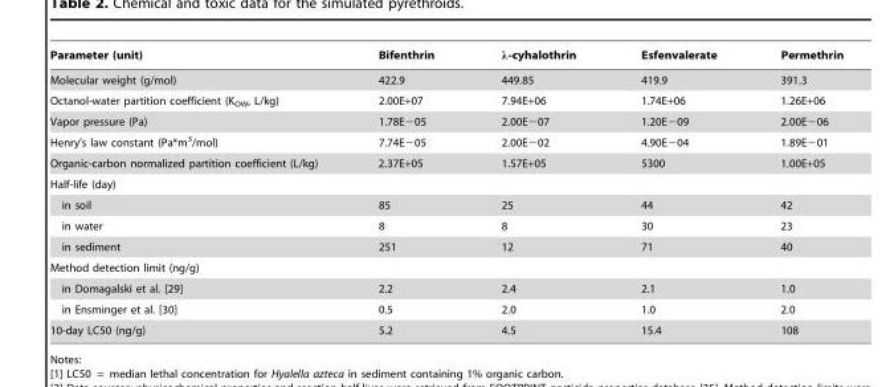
<table><thead><tr><td>Parameter (unit)</td><td>Bifenthrin</td><td>λ-cyhalothrin</td><td>Esfenvalerate</td><td>Permethrin</td></tr></thead><tbody><tr><td>Molecular weight (g/mol)</td><td>422.9</td><td>449.85</td><td>419.9</td><td>391.3</td></tr><tr><td>Octanol-water partition coefficient (K<sub>OW</sub>, L/kg)</td><td>2.00E+07</td><td>7.94E+06</td><td>1.74E+06</td><td>1.26E+06</td></tr><tr><td>Vapor pressure (Pa)</td><td>1.78E−05</td><td>2.00E−07</td><td>1.20E−09</td><td>2.00E−06</td></tr><tr><td>Henry’s law constant (Pa*m<sup>3</sup>/mol)</td><td>7.74E−05</td><td>2.00E−02</td><td>4.90E−04</td><td>1.89E−01</td></tr><tr><td>Organic-carbon normalized partition coefficient (L/kg)</td><td>2.37E+05</td><td>1.57E+05</td><td>5300</td><td>1.00E+05</td></tr><tr><td colspan="5">Half-life (day)</td></tr><tr><td>in soil</td><td>85</td><td>25</td><td>44</td><td>42</td></tr><tr><td>in water</td><td>8</td><td>8</td><td>30</td><td>23</td></tr><tr><td>in sediment</td><td>251</td><td>12</td><td>71</td><td>40</td></tr><tr><td colspan="5">Method detection limit (ng/g)</td></tr><tr><td>in Domagalski et al. [29]</td><td>2.2</td><td>2.4</td><td>2.1</td><td>1.0</td></tr><tr><td>in Ensminger et al. [30]</td><td>0.5</td><td>2.0</td><td>1.0</td><td>2.0</td></tr><tr><td>10-day LC50 (ng/g)</td><td>5.2</td><td>4.5</td><td>15.4</td><td>108</td></tr></tbody></table>